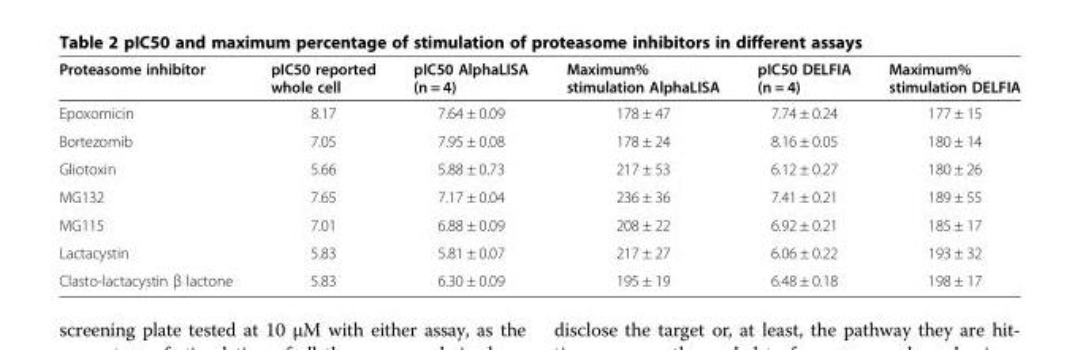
<table><thead><tr><td>Proteasome inhibitor</td><td>pIC50 reported whole cell</td><td>pIC50 AlphaLISA (n = 4)</td><td>Maximum% stimulation AlphaLISA</td><td>pIC50 DELFIA (n = 4)</td><td>Maximum% stimulation DELFIA</td></tr></thead><tbody><tr><td>Epoxomicin</td><td>8.17</td><td>7.64 ± 0.09</td><td>178 ± 47</td><td>7.74 ± 0.24</td><td>177 ± 15</td></tr><tr><td>Bortezomib</td><td>7.05</td><td>7.95 ± 0.08</td><td>178 ± 24</td><td>8.16 ± 0.05</td><td>180 ± 14</td></tr><tr><td>Gliotoxin</td><td>5.66</td><td>5.88 ± 0.73</td><td>217 ± 53</td><td>6.12 ± 0.27</td><td>180 ± 26</td></tr><tr><td>MG132</td><td>7.65</td><td>7.17 ± 0.04</td><td>236 ± 36</td><td>7.41 ± 0.21</td><td>189 ± 55</td></tr><tr><td>MG115</td><td>7.01</td><td>6.88 ± 0.09</td><td>208 ± 22</td><td>6.92 ± 0.21</td><td>185 ± 17</td></tr><tr><td>Lactacystin</td><td>5.83</td><td>5.81 ± 0.07</td><td>217 ± 27</td><td>6.06 ± 0.22</td><td>193 ± 32</td></tr><tr><td>Clasto-lactacystin β lactone</td><td>5.83</td><td>6.30 ± 0.09</td><td>195 ± 19</td><td>6.48 ± 0.18</td><td>198 ± 17</td></tr></tbody></table>